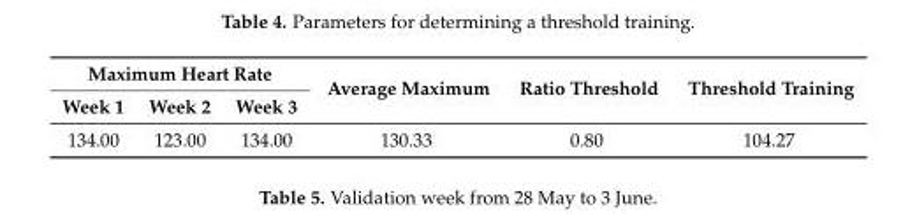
<table><thead><tr><td colspan="3">Maximum Heart Rate</td><td rowspan="2">Average Maximum</td><td rowspan="2">Ratio Threshold</td><td rowspan="2">Threshold Training</td></tr><tr><td>Week 1</td><td>Week 2</td><td>Week 3</td></tr></thead><tbody><tr><td>134.00</td><td>123.00</td><td>134.00</td><td>130.33</td><td>0.80</td><td>104.27</td></tr></tbody></table>